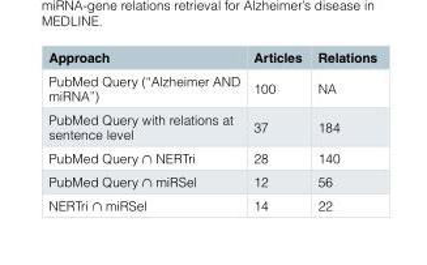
<table><thead><tr><td>Approach</td><td>Articles</td><td>Relations</td></tr></thead><tbody><tr><td>PubMed Query (“Alzheimer AND miRNA”)</td><td>100</td><td>NA</td></tr><tr><td>PubMed Query with relations at sentence level</td><td>37</td><td>184</td></tr><tr><td>PubMed Query ∩ NERTri</td><td>28</td><td>140</td></tr><tr><td>PubMed Query ∩ miRSel</td><td>12</td><td>56</td></tr><tr><td>NERTri ∩ miRSel</td><td>14</td><td>22</td></tr></tbody></table>